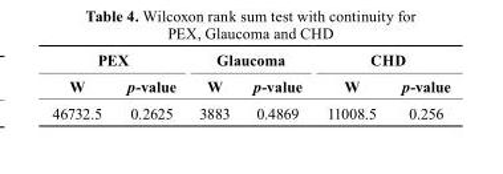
<table><thead><tr><td colspan="2">PEX</td><td colspan="2">Glaucoma</td><td colspan="2">cHD</td></tr><tr><td>W</td><td>p-value</td><td>W</td><td>p-value</td><td>W</td><td>p-value</td></tr></thead><tbody><tr><td>46732.5</td><td>0.2625</td><td>3883</td><td>0.4869</td><td>11008.5</td><td>0.256</td></tr></tbody></table>